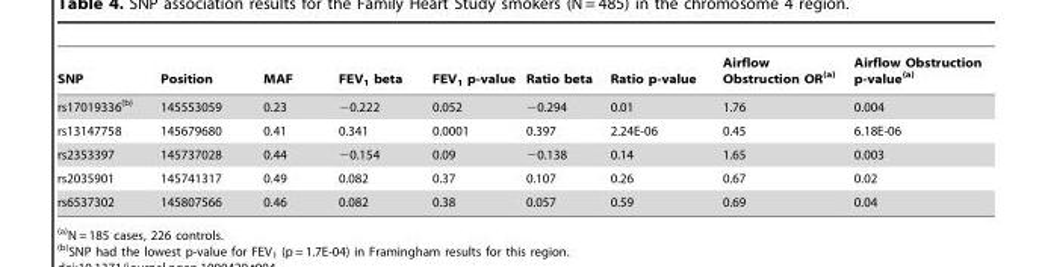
<table><thead><tr><td>SNP</td><td>Position</td><td>MAF</td><td>FEV<sub>1</sub> beta</td><td>FEV<sub>1</sub> p-value</td><td>Ratio beta</td><td>Ratio p-value</td><td>Airflow Obstruction OR(a)</td><td>Airflow Obstruction p-value(a)</td></tr></thead><tbody><tr><td>rs17019336(b)</td><td>145553059</td><td>0.23</td><td>−0.222</td><td>0.052</td><td>−0.294</td><td>0.01</td><td>1.76</td><td>0.004</td></tr><tr><td>rs13147758</td><td>145679680</td><td>0.41</td><td>0.341</td><td>0.0001</td><td>0.397</td><td>2.24E-06</td><td>0.45</td><td>6.18E-06</td></tr><tr><td>rs2353397</td><td>145737028</td><td>0.44</td><td>−0.154</td><td>0.09</td><td>−0.138</td><td>0.14</td><td>1.65</td><td>0.003</td></tr><tr><td>rs2035901</td><td>145741317</td><td>0.49</td><td>0.082</td><td>0.37</td><td>0.107</td><td>0.26</td><td>0.67</td><td>0.02</td></tr><tr><td>rs6537302</td><td>145807566</td><td>0.46</td><td>0.082</td><td>0.38</td><td>0.057</td><td>0.59</td><td>0.69</td><td>0.04</td></tr></tbody></table>